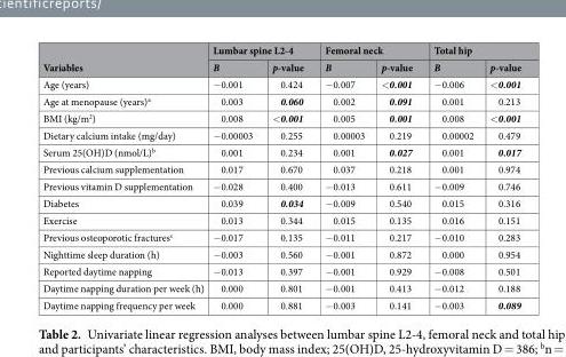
<table><thead><tr><td rowspan="2">Variables</td><td colspan="2">Lumbar spine L2-4</td><td colspan="2">Femoral neck</td><td colspan="2">Total hip</td></tr><tr><td>B</td><td>p-value</td><td>B</td><td>p-value</td><td>B</td><td>p-value</td></tr></thead><tbody><tr><td>Age (years)</td><td>−0.001</td><td>0.424</td><td>−0.007</td><td>&lt;0.001</td><td>−0.006</td><td>&lt;0.001</td></tr><tr><td>Age at menopause (years)<sup>a</sup></td><td>0.003</td><td>0.060</td><td>0.002</td><td>0.091</td><td>0.001</td><td>0.213</td></tr><tr><td>BMI (kg/m<sup>2</sup>)</td><td>0.008</td><td>&lt;0.001</td><td>0.005</td><td>0.001</td><td>0.008</td><td>&lt;0.001</td></tr><tr><td>Dietary calcium intake (mg/day)</td><td>−0.00003</td><td>0.255</td><td>0.00003</td><td>0.219</td><td>0.00002</td><td>0.479</td></tr><tr><td>Serum 25(OH)D (nmol/L)<sup>b</sup></td><td>0.001</td><td>0.234</td><td>0.001</td><td>0.027</td><td>0.001</td><td>0.017</td></tr><tr><td>Previous calcium supplementation</td><td>0.017</td><td>0.670</td><td>0.037</td><td>0.218</td><td>0.001</td><td>0.974</td></tr><tr><td>Previous vitamin D supplementation</td><td>−0.028</td><td>0.400</td><td>−0.013</td><td>0.611</td><td>−0.009</td><td>0.746</td></tr><tr><td>Diabetes</td><td>0.039</td><td>0.034</td><td>−0.009</td><td>0.540</td><td>0.015</td><td>0.316</td></tr><tr><td>Exercise</td><td>0.013</td><td>0.344</td><td>0.015</td><td>0.135</td><td>0.016</td><td>0.151</td></tr><tr><td>Previous osteoporotic fractures<sup>c</sup></td><td>−0.017</td><td>0.135</td><td>−0.011</td><td>0.217</td><td>−0.010</td><td>0.283</td></tr><tr><td>Nighttime sleep duration (h)</td><td>−0.003</td><td>0.560</td><td>−0.001</td><td>0.872</td><td>0.000</td><td>0.954</td></tr><tr><td>Reported daytime napping</td><td>−0.013</td><td>0.397</td><td>−0.001</td><td>0.929</td><td>−0.008</td><td>0.501</td></tr><tr><td>Daytime napping duration per week (h)</td><td>0.000</td><td>0.801</td><td>−0.001</td><td>0.413</td><td>−0.012</td><td>0.188</td></tr><tr><td>Daytime napping frequency per week</td><td>0.000</td><td>0.881</td><td>−0.003</td><td>0.141</td><td>−0.003</td><td>0.089</td></tr></tbody></table>